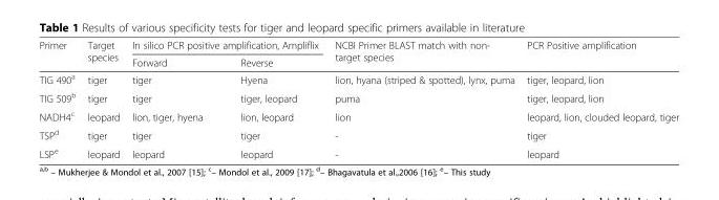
<table><thead><tr><td rowspan="2">Primer</td><td rowspan="2">Target species</td><td colspan="2">In silico PCR positive amplification, Ampliflix</td><td rowspan="2">NCBI Primer BLAST match with non- target species</td><td rowspan="2">PCR Positive amplification</td></tr><tr><td>Forward</td><td>Reverse</td></tr></thead><tbody><tr><td>TIG 490<sup>a</sup></td><td>tiger</td><td>tiger</td><td>Hyena</td><td>lion, hyana (striped &amp; spotted), lynx, puma</td><td>tiger, leopard, lion</td></tr><tr><td>TIG 509<sup>b</sup></td><td>tiger</td><td>tiger</td><td>tiger, leopard</td><td>puma</td><td>tiger, leopard, lion</td></tr><tr><td>NADH4<sup>c</sup></td><td>leopard</td><td>lion, tiger, hyena</td><td>lion, leopard</td><td>lion</td><td>leopard, lion, clouded leopard, tiger</td></tr><tr><td>TSP<sup>d</sup></td><td>tiger</td><td>tiger</td><td>tiger</td><td>-</td><td>tiger</td></tr><tr><td>LSP<sup>e</sup></td><td>leopard</td><td>leopard</td><td>leopard</td><td>-</td><td>leopard</td></tr></tbody></table>